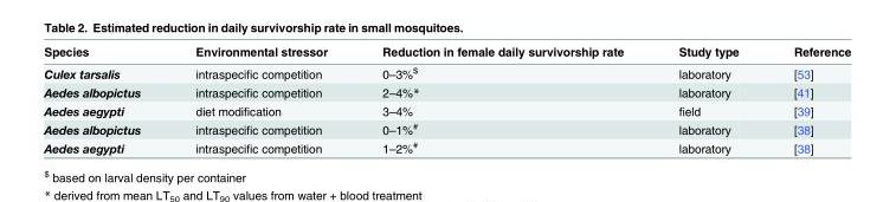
<table><thead><tr><td>Species</td><td>Environmental stressor</td><td>Reduction in female daily survivorship rate</td><td>Study type</td><td>Reference</td></tr></thead><tbody><tr><td>Culex tarsalis</td><td>intraspecific competition</td><td>0–3%<sup>$</sup></td><td>laboratory</td><td>[53]</td></tr><tr><td>Aedes albopictus</td><td>intraspecific competition</td><td>2–4%*</td><td>laboratory</td><td>[41]</td></tr><tr><td>Aedes aegypti</td><td>diet modification</td><td>3–4%</td><td>field</td><td>[39]</td></tr><tr><td>Aedes albopictus</td><td>intraspecific competition</td><td>0–1%<sup>#</sup></td><td>laboratory</td><td>[38]</td></tr><tr><td>Aedes aegypti</td><td>intraspecific competition</td><td>1–2%<sup>#</sup></td><td>laboratory</td><td>[38]</td></tr></tbody></table>